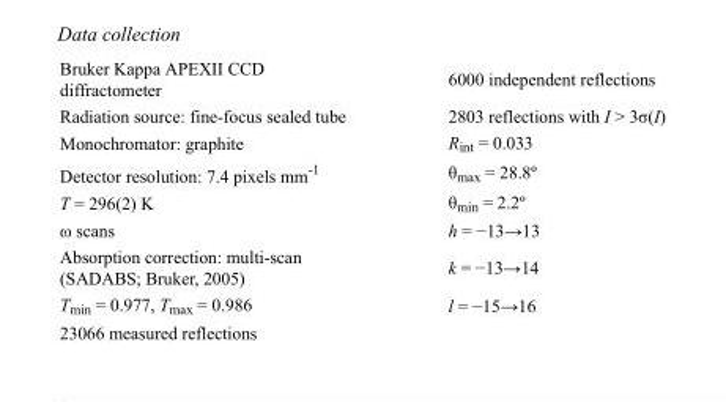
<table><tbody><tr><td>Bruker Kappa APEXII CCD diffractometer</td><td>6000 independent reflections</td></tr><tr><td>Radiation source: fine-focus sealed tube</td><td>2803 reflections with I &gt; 3σ(I)</td></tr><tr><td>Monochromator: graphite</td><td>R<sub>int</sub> = 0.033</td></tr><tr><td>Detector resolution: 7.4 pixels mm<sup>-1</sup></td><td>θ<sub>max</sub> = 28.8º</td></tr><tr><td>T = 296(2) K</td><td>θ<sub>min</sub> = 2.2º</td></tr><tr><td>ω scans</td><td>h = −13→13</td></tr><tr><td>Absorption correction: multi-scan (SADABS; Bruker, 2005)</td><td>k = −13→14</td></tr><tr><td>T<sub>min</sub> = 0.977, T<sub>max</sub> = 0.986</td><td>l = −15→16</td></tr><tr><td>23066 measured reflections</td><td></td></tr></tbody></table>